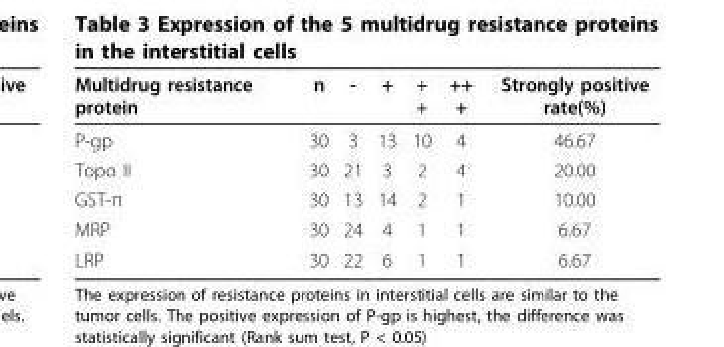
<table><thead><tr><td>Multidrug resistance protein</td><td>n</td><td>-</td><td>+</td><td>+ +</td><td>++ +</td><td>Strongly positive rate(%)</td></tr></thead><tbody><tr><td>P-gp</td><td>30</td><td>3</td><td>13</td><td>10</td><td>4</td><td>46.67</td></tr><tr><td>Topo II</td><td>30</td><td>21</td><td>3</td><td>2</td><td>4</td><td>20.00</td></tr><tr><td>GST-π</td><td>30</td><td>13</td><td>14</td><td>2</td><td>1</td><td>10.00</td></tr><tr><td>MRP</td><td>30</td><td>24</td><td>4</td><td>1</td><td>1</td><td>6.67</td></tr><tr><td>LRP</td><td>30</td><td>22</td><td>6</td><td>1</td><td>1</td><td>6.67</td></tr></tbody></table>